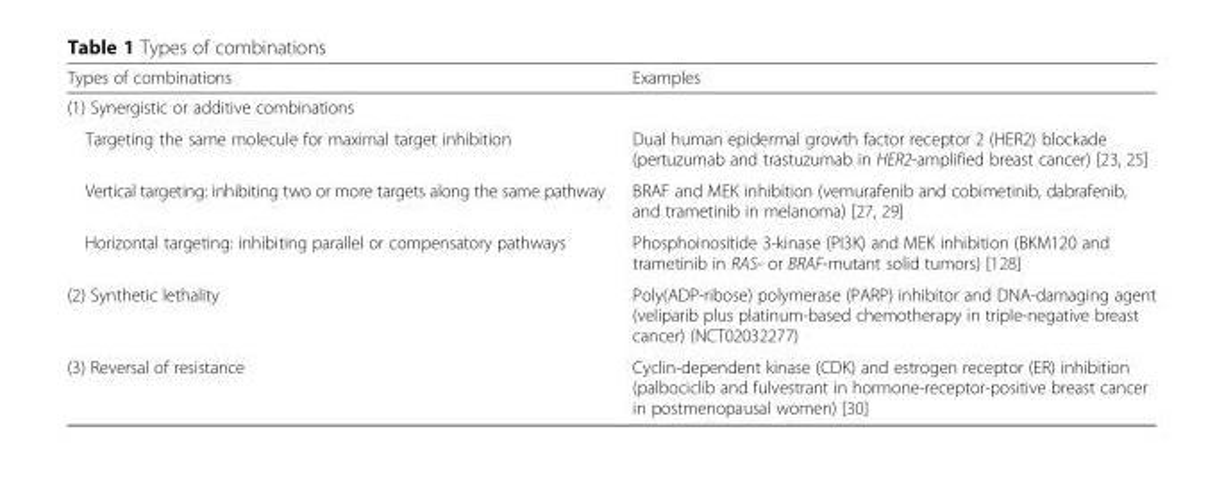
<table><thead><tr><td>Types of combinations</td><td>Examples</td></tr></thead><tbody><tr><td colspan="2">(1) Synergistic or additive combinations</td></tr><tr><td>Targeting the same molecule for maximal target inhibition</td><td>Dual human epidermal growth factor receptor 2 (HER2) blockade (pertuzumab and trastuzumab in HER2-amplified breast cancer) [23, 25]</td></tr><tr><td>Vertical targeting: inhibiting two or more targets along the same pathway</td><td>BRAF and MEK inhibition (vemurafenib and cobimetinib, dabrafenib, and trametinib in melanoma) [27, 29]</td></tr><tr><td>Horizontal targeting: inhibiting parallel or compensatory pathways</td><td>Phosphoinositide 3-kinase (PI3K) and MEK inhibition (BKM120 and trametinib in RAS- or BRAF-mutant solid tumors) [128]</td></tr><tr><td>(2) Synthetic lethality</td><td>Poly(ADP-ribose) polymerase (PARP) inhibitor and DNA-damaging agent (veliparib plus platinum-based chemotherapy in triple-negative breast cancer) (NCT02032277)</td></tr><tr><td>(3) Reversal of resistance</td><td>Cyclin-dependent kinase (CDK) and estrogen receptor (ER) inhibition (palbociclib and fulvestrant in hormone-receptor-positive breast cancer in postmenopausal women) [30]</td></tr></tbody></table>